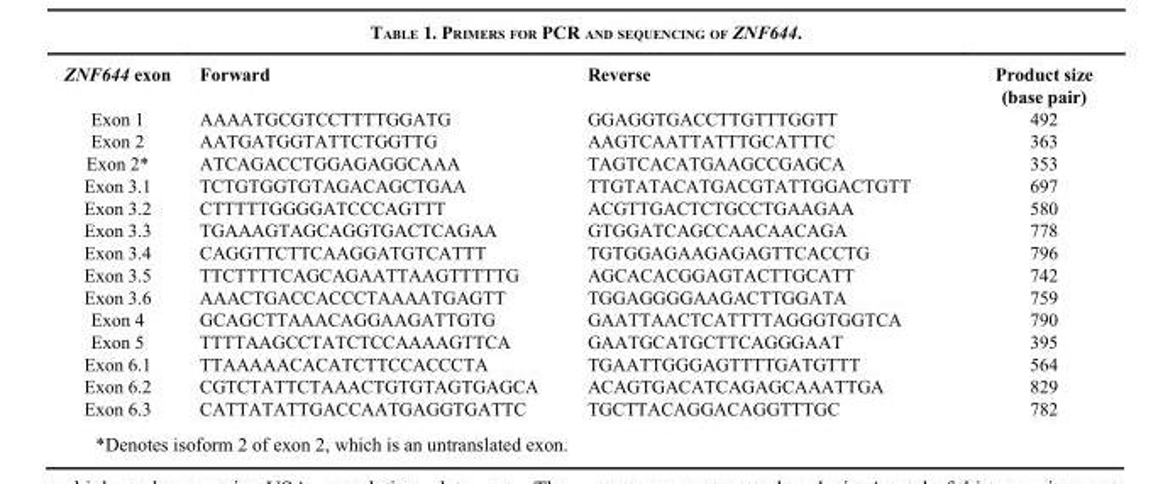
<table><thead><tr><td>ZNF644 exon</td><td>Forward</td><td>Reverse</td><td>Product size (base pair)</td></tr></thead><tbody><tr><td>Exon 1</td><td>AAAATGCGTCCTTTTGGATG</td><td>GGAGGTGACCTTGTTTGGTT</td><td>492</td></tr><tr><td>Exon 2</td><td>AATGATGGTATTCTGGTTG</td><td>AAGTCAATTATTTGCATTTC</td><td>363</td></tr><tr><td>Exon 2*</td><td>ATCAGACCTGGAGAGGCAAA</td><td>TAGTCACATGAAGCCGAGCA</td><td>353</td></tr><tr><td>Exon 3.1</td><td>TCTGTGGTGTAGACAGCTGAA</td><td>TTGTATACATGACGTATTGGACTGTT</td><td>697</td></tr><tr><td>Exon 3.2</td><td>CTTTTTGGGGATCCCAGTTT</td><td>ACGTTGACTCTGCCTGAAGAA</td><td>580</td></tr><tr><td>Exon 3.3</td><td>TGAAAGTAGCAGGTGACTCAGAA</td><td>GTGGATCAGCCAACAACAGA</td><td>778</td></tr><tr><td>Exon 3.4</td><td>CAGGTTCTTCAAGGATGTCATTT</td><td>TGTGGAGAAGAGAGTTCACCTG</td><td>796</td></tr><tr><td>Exon 3.5</td><td>TTCTTTTCAGCAGAATTAAGTTTTTG</td><td>AGCACACGGAGTACTTGCATT</td><td>742</td></tr><tr><td>Exon 3.6</td><td>AAACTGACCACCCTAAAATGAGTT</td><td>TGGAGGGGAAGACTTGGATA</td><td>759</td></tr><tr><td>Exon 4</td><td>GCAGCTTAAACAGGAAGATTGTG</td><td>GAATTAACTCATTTTAGGGTGGTCA</td><td>790</td></tr><tr><td>Exon 5</td><td>TTTTAAGCCTATCTCCAAAAGTTCA</td><td>GAATGCATGCTTCAGGGAAT</td><td>395</td></tr><tr><td>Exon 6.1</td><td>TTAAAAACACATCTTCCACCCTA</td><td>TGAATTGGGAGTTTTGATGTTT</td><td>564</td></tr><tr><td>Exon 6.2</td><td>CGTCTATTCTAAACTGTGTAGTGAGCA</td><td>ACAGTGACATCAGAGCAAATTGA</td><td>829</td></tr><tr><td>Exon 6.3</td><td>CATTATATTGACCAATGAGGTGATTC</td><td>TGCTTACAGGACAGGTTTGC</td><td>782</td></tr></tbody></table>